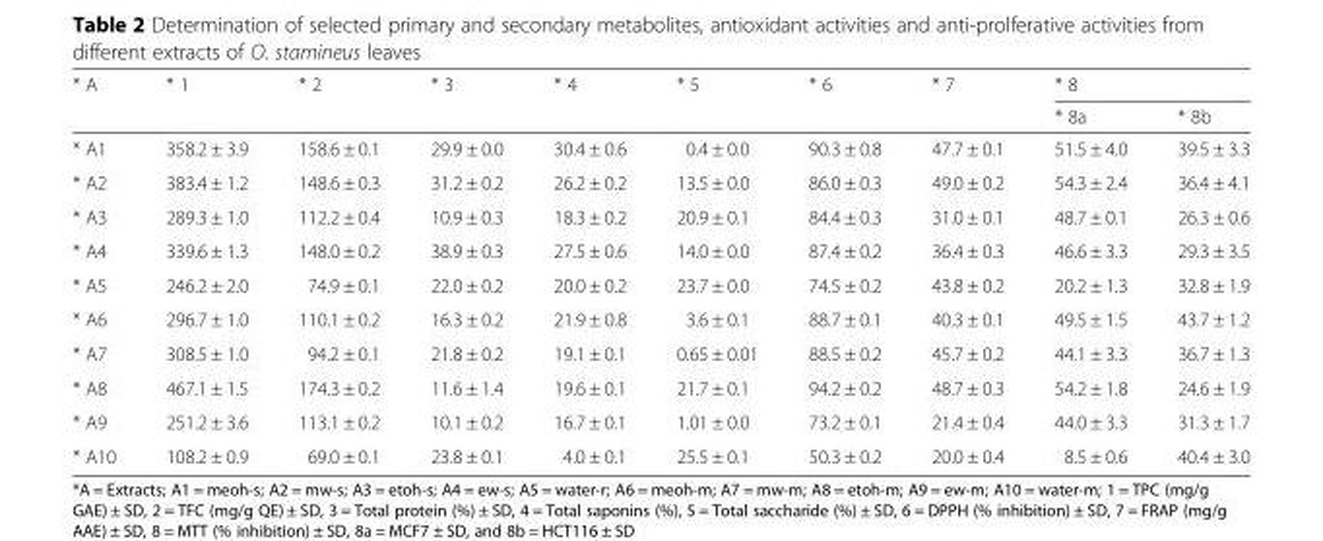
<table><thead><tr><td rowspan="2">* A</td><td rowspan="2">* 1</td><td rowspan="2">* 2</td><td rowspan="2">* 3</td><td rowspan="2">* 4</td><td rowspan="2">* 5</td><td rowspan="2">* 6</td><td rowspan="2">* 7</td><td colspan="2">* 8</td></tr><tr><td>* 8a</td><td>* 8b</td></tr></thead><tbody><tr><td>* A1</td><td>358.2 ± 3.9</td><td>158.6 ± 0.1</td><td>29.9 ± 0.0</td><td>30.4 ± 0.6</td><td>0.4 ± 0.0</td><td>90.3 ± 0.8</td><td>47.7 ± 0.1</td><td>51.5 ± 4.0</td><td>39.5 ± 3.3</td></tr><tr><td>* A2</td><td>383.4 ± 1.2</td><td>148.6 ± 0.3</td><td>31.2 ± 0.2</td><td>26.2 ± 0.2</td><td>13.5 ± 0.0</td><td>86.0 ± 0.3</td><td>49.0 ± 0.2</td><td>54.3 ± 2.4</td><td>36.4 ± 4.1</td></tr><tr><td>* A3</td><td>289.3 ± 1.0</td><td>112.2 ± 0.4</td><td>10.9 ± 0.3</td><td>18.3 ± 0.2</td><td>20.9 ± 0.1</td><td>84.4 ± 0.3</td><td>31.0 ± 0.1</td><td>48.7 ± 0.1</td><td>26.3 ± 0.6</td></tr><tr><td>* A4</td><td>339.6 ± 1.3</td><td>148.0 ± 0.2</td><td>38.9 ± 0.3</td><td>27.5 ± 0.6</td><td>14.0 ± 0.0</td><td>87.4 ± 0.2</td><td>36.4 ± 0.3</td><td>46.6 ± 3.3</td><td>29.3 ± 3.5</td></tr><tr><td>* A5</td><td>246.2 ± 2.0</td><td>74.9 ± 0.1</td><td>22.0 ± 0.2</td><td>20.0 ± 0.2</td><td>23.7 ± 0.0</td><td>74.5 ± 0.2</td><td>43.8 ± 0.2</td><td>20.2 ± 1.3</td><td>32.8 ± 1.9</td></tr><tr><td>* A6</td><td>296.7 ± 1.0</td><td>110.1 ± 0.2</td><td>16.3 ± 0.2</td><td>21.9 ± 0.8</td><td>3.6 ± 0.1</td><td>88.7 ± 0.1</td><td>40.3 ± 0.1</td><td>49.5 ± 1.5</td><td>43.7 ± 1.2</td></tr><tr><td>* A7</td><td>308.5 ± 1.0</td><td>94.2 ± 0.1</td><td>21.8 ± 0.2</td><td>19.1 ± 0.1</td><td>0.65 ± 0.01</td><td>88.5 ± 0.2</td><td>45.7 ± 0.2</td><td>44.1 ± 3.3</td><td>36.7 ± 1.3</td></tr><tr><td>* A8</td><td>467.1 ± 1.5</td><td>174.3 ± 0.2</td><td>11.6 ± 1.4</td><td>19.6 ± 0.1</td><td>21.7 ± 0.1</td><td>94.2 ± 0.2</td><td>48.7 ± 0.3</td><td>54.2 ± 1.8</td><td>24.6 ± 1.9</td></tr><tr><td>* A9</td><td>251.2 ± 3.6</td><td>113.1 ± 0.2</td><td>10.1 ± 0.2</td><td>16.7 ± 0.1</td><td>1.01 ± 0.0</td><td>73.2 ± 0.1</td><td>21.4 ± 0.4</td><td>44.0 ± 3.3</td><td>31.3 ± 1.7</td></tr><tr><td>* A10</td><td>108.2 ± 0.9</td><td>69.0 ± 0.1</td><td>23.8 ± 0.1</td><td>4.0 ± 0.1</td><td>25.5 ± 0.1</td><td>50.3 ± 0.2</td><td>20.0 ± 0.4</td><td>8.5 ± 0.6</td><td>40.4 ± 3.0</td></tr></tbody></table>